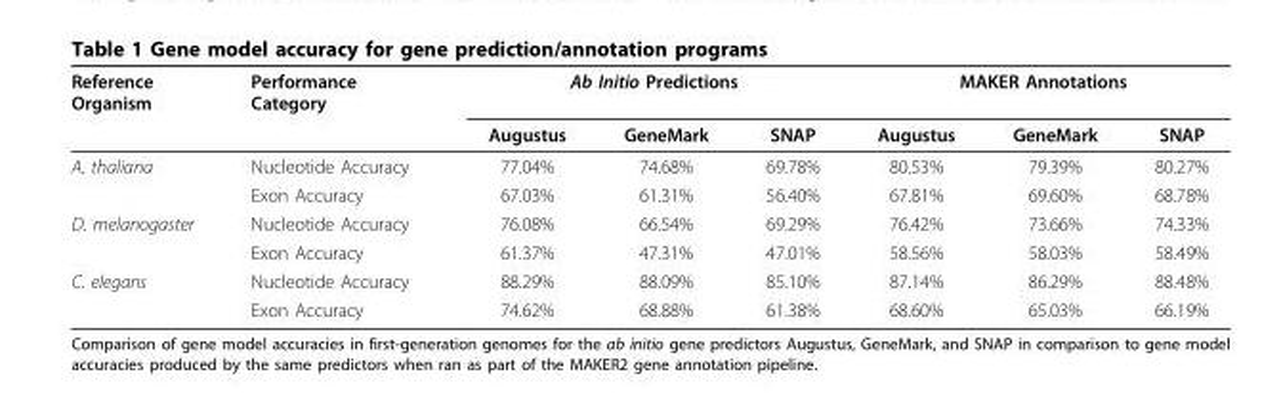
<table><thead><tr><td rowspan="2">Reference Organism</td><td rowspan="2">Performance Category</td><td colspan="3">Ab Initio Predictions</td><td colspan="3">MAKER Annotations</td></tr><tr><td>Augustus</td><td>GeneMark</td><td>SNAP</td><td>Augustus</td><td>GeneMark</td><td>SNAP</td></tr></thead><tbody><tr><td rowspan="2">A. thaliana</td><td>Nucleotide Accuracy</td><td>77.04%</td><td>74.68%</td><td>69.78%</td><td>80.53%</td><td>79.39%</td><td>80.27%</td></tr><tr><td>Exon Accuracy</td><td>67.03%</td><td>61.31%</td><td>56.40%</td><td>67.81%</td><td>69.60%</td><td>68.78%</td></tr><tr><td rowspan="2">D. melanogaster</td><td>Nucleotide Accuracy</td><td>76.08%</td><td>66.54%</td><td>69.29%</td><td>76.42%</td><td>73.66%</td><td>74.33%</td></tr><tr><td>Exon Accuracy</td><td>61.37%</td><td>47.31%</td><td>47.01%</td><td>58.56%</td><td>58.03%</td><td>58.49%</td></tr><tr><td rowspan="2">C. elegans</td><td>Nucleotide Accuracy</td><td>88.29%</td><td>88.09%</td><td>85.10%</td><td>87.14%</td><td>86.29%</td><td>88.48%</td></tr><tr><td>Exon Accuracy</td><td>74.62%</td><td>68.88%</td><td>61.38%</td><td>68.60%</td><td>65.03%</td><td>66.19%</td></tr></tbody></table>